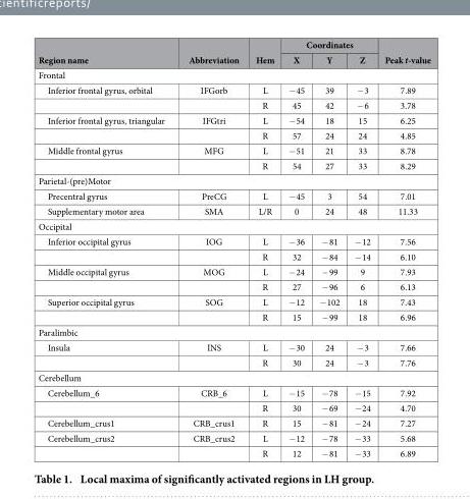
<table><thead><tr><td rowspan="2">Region name</td><td rowspan="2">Abbreviation</td><td rowspan="2">Hem</td><td colspan="3">Coordinates</td><td rowspan="2">Peak t-value</td></tr><tr><td>X</td><td>Y</td><td>Z</td></tr></thead><tbody><tr><td colspan="7">Frontal</td></tr><tr><td rowspan="2">Inferior frontal gyrus, orbital</td><td>IFGorb</td><td>L</td><td>− 45</td><td>39</td><td>− 3</td><td>7.89</td></tr><tr><td></td><td>R</td><td>45</td><td>42</td><td>− 6</td><td>3.78</td></tr><tr><td rowspan="2">Inferior frontal gyrus, triangular</td><td>IFGtri</td><td>L</td><td>− 54</td><td>18</td><td>15</td><td>6.25</td></tr><tr><td></td><td>R</td><td>57</td><td>24</td><td>24</td><td>4.85</td></tr><tr><td rowspan="2">Middle frontal gyrus</td><td>MFG</td><td>L</td><td>− 51</td><td>21</td><td>33</td><td>8.78</td></tr><tr><td></td><td>R</td><td>54</td><td>27</td><td>33</td><td>8.29</td></tr><tr><td colspan="7">Parietal-(pre)Motor</td></tr><tr><td>Precentral gyrus</td><td>PreCG</td><td>L</td><td>− 45</td><td>3</td><td>54</td><td>7.01</td></tr><tr><td>Supplementary motor area</td><td>SMA</td><td>L/R</td><td>0</td><td>24</td><td>48</td><td>11.33</td></tr><tr><td colspan="7">Occipital</td></tr><tr><td rowspan="2">Inferior occipital gyrus</td><td>IOG</td><td>L</td><td>− 36</td><td>− 81</td><td>− 12</td><td>7.56</td></tr><tr><td></td><td>R</td><td>32</td><td>− 84</td><td>− 14</td><td>6.10</td></tr><tr><td rowspan="2">Middle occipital gyrus</td><td>MOG</td><td>L</td><td>− 24</td><td>− 99</td><td>9</td><td>7.93</td></tr><tr><td></td><td>R</td><td>27</td><td>− 96</td><td>6</td><td>6.13</td></tr><tr><td rowspan="2">Superior occipital gyrus</td><td>SOG</td><td>L</td><td>− 12</td><td>− 102</td><td>18</td><td>7.43</td></tr><tr><td></td><td>R</td><td>15</td><td>− 99</td><td>18</td><td>6.96</td></tr><tr><td colspan="7">Paralimbic</td></tr><tr><td rowspan="2">Insula</td><td>INS</td><td>L</td><td>− 30</td><td>24</td><td>− 3</td><td>7.66</td></tr><tr><td></td><td>R</td><td>30</td><td>24</td><td>− 3</td><td>7.76</td></tr><tr><td colspan="7">Cerebellum</td></tr><tr><td rowspan="2">Cerebellum_6</td><td>CRB_6</td><td>L</td><td>− 15</td><td>− 78</td><td>− 15</td><td>7.92</td></tr><tr><td></td><td>R</td><td>30</td><td>− 69</td><td>− 24</td><td>4.70</td></tr><tr><td>Cerebellum_crus1</td><td>CRB_crus1</td><td>R</td><td>15</td><td>− 81</td><td>− 24</td><td>7.27</td></tr><tr><td rowspan="2">Cerebellum_crus2</td><td>CRB_crus2</td><td>L</td><td>− 12</td><td>− 78</td><td>− 33</td><td>5.68</td></tr><tr><td></td><td>R</td><td>12</td><td>− 81</td><td>− 33</td><td>6.89</td></tr></tbody></table>